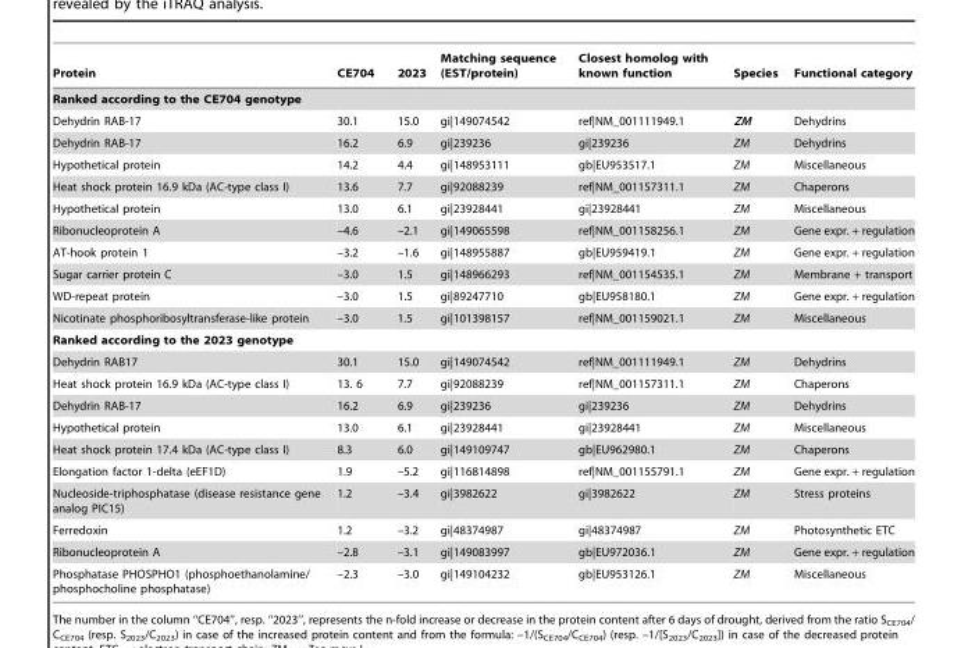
<table><thead><tr><td>Protein</td><td>CE704</td><td>2023</td><td>Matching sequence (EST/protein)</td><td>Closest homolog with known function</td><td>Species</td><td>Functional category</td></tr></thead><tbody><tr><td colspan="7">Ranked according to the CE704 genotype</td></tr><tr><td>Dehydrin RAB-17</td><td>30.1</td><td>15.0</td><td>gi|149074542</td><td>ref|NM_001111949.1</td><td>ZM</td><td>Dehydrins</td></tr><tr><td>Dehydrin RAB-17</td><td>16.2</td><td>6.9</td><td>gi|239236</td><td>gi|239236</td><td>ZM</td><td>Dehydrins</td></tr><tr><td>Hypothetical protein</td><td>14.2</td><td>4.4</td><td>gi|148953111</td><td>gb|EU953517.1</td><td>ZM</td><td>Miscellaneous</td></tr><tr><td>Heat shock protein 16.9 kDa (AC-type class I)</td><td>13.6</td><td>7.7</td><td>gi|92088239</td><td>ref|NM_001157311.1</td><td>ZM</td><td>Chaperons</td></tr><tr><td>Hypothetical protein</td><td>13.0</td><td>6.1</td><td>gi|23928441</td><td>gi|23928441</td><td>ZM</td><td>Miscellaneous</td></tr><tr><td>Ribonucleoprotein A</td><td>–4.6</td><td>–2.1</td><td>gi|149065598</td><td>ref|NM_001158256.1</td><td>ZM</td><td>Gene expr. + regulation</td></tr><tr><td>AT-hook protein 1</td><td>–3.2</td><td>–1.6</td><td>gi|148955887</td><td>gb|EU959419.1</td><td>ZM</td><td>Gene expr. + regulation</td></tr><tr><td>Sugar carrier protein C</td><td>–3.0</td><td>1.5</td><td>gi|148966293</td><td>ref|NM_001154535.1</td><td>ZM</td><td>Membrane + transport</td></tr><tr><td>WD-repeat protein</td><td>–3.0</td><td>1.5</td><td>gi|89247710</td><td>gb|EU958180.1</td><td>ZM</td><td>Gene expr. + regulation</td></tr><tr><td>Nicotinate phosphoribosyltransferase-like protein</td><td>–3.0</td><td>1.5</td><td>gi|101398157</td><td>ref|NM_001159021.1</td><td>ZM</td><td>Miscellaneous</td></tr><tr><td colspan="7">Ranked according to the 2023 genotype</td></tr><tr><td>Dehydrin RAB17</td><td>30.1</td><td>15.0</td><td>gi|149074542</td><td>ref|NM_001111949.1</td><td>ZM</td><td>Dehydrins</td></tr><tr><td>Heat shock protein 16.9 kDa (AC-type class I)</td><td>13. 6</td><td>7.7</td><td>gi|92088239</td><td>ref|NM_001157311.1</td><td>ZM</td><td>Chaperons</td></tr><tr><td>Dehydrin RAB-17</td><td>16.2</td><td>6.9</td><td>gi|239236</td><td>gi|239236</td><td>ZM</td><td>Dehydrins</td></tr><tr><td>Hypothetical protein</td><td>13.0</td><td>6.1</td><td>gi|23928441</td><td>gi|23928441</td><td>ZM</td><td>Miscellaneous</td></tr><tr><td>Heat shock protein 17.4 kDa (AC-type class I)</td><td>8.3</td><td>6.0</td><td>gi|149109747</td><td>gb|EU962980.1</td><td>ZM</td><td>Chaperons</td></tr><tr><td>Elongation factor 1-delta (eEF1D)</td><td>1.9</td><td>–5.2</td><td>gi|116814898</td><td>ref|NM_001155791.1</td><td>ZM</td><td>Gene expr. + regulation</td></tr><tr><td>Nucleoside-triphosphatase (disease resistance gene analog PIC15)</td><td>1.2</td><td>–3.4</td><td>gi|3982622</td><td>gi|3982622</td><td>ZM</td><td>Stress proteins</td></tr><tr><td>Ferredoxin</td><td>1.2</td><td>–3.2</td><td>gi|48374987</td><td>gi|48374987</td><td>ZM</td><td>Photosynthetic ETC</td></tr><tr><td>Ribonucleoprotein A</td><td>–2.8</td><td>–3.1</td><td>gi|149083997</td><td>gb|EU972036.1</td><td>ZM</td><td>Gene expr. + regulation</td></tr><tr><td>Phosphatase PHOSPHO1 (phosphoethanolamine/ phosphocholine phosphatase)</td><td>–2.3</td><td>–3.0</td><td>gi|149104232</td><td>gb|EU953126.1</td><td>ZM</td><td>Miscellaneous</td></tr></tbody></table>